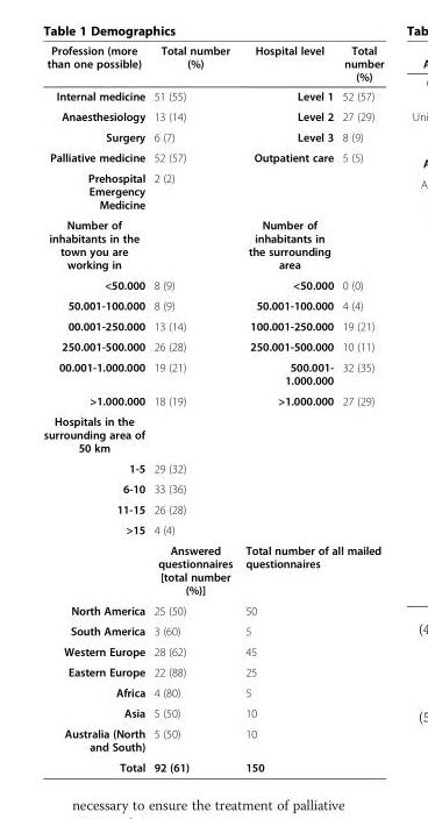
<table><thead><tr><td>Profession (more than one possible)</td><td>Total number (%)</td><td>Hospital level</td><td>Total number (%)</td></tr></thead><tbody><tr><td>Internal medicine</td><td>51 (55)</td><td>Level 1</td><td>52 (57)</td></tr><tr><td>Anaesthesiology</td><td>13 (14)</td><td>Level 2</td><td>27 (29)</td></tr><tr><td>Surgery</td><td>6 (7)</td><td>Level 3</td><td>8 (9)</td></tr><tr><td>Palliative medicine</td><td>52 (57)</td><td>Outpatient care</td><td>5 (5)</td></tr><tr><td>Prehospital Emergency Medicine</td><td>2 (2)</td><td></td><td></td></tr><tr><td>Number of inhabitants in the town you are working in</td><td></td><td>Number of inhabitants in the surrounding area</td><td></td></tr><tr><td>&lt;50.000</td><td>8 (9)</td><td>&lt;50.000</td><td>0 (0)</td></tr><tr><td>50.001-100.000</td><td>8 (9)</td><td>50.001-100.000</td><td>4 (4)</td></tr><tr><td>00.001-250.000</td><td>13 (14)</td><td>100.001-250.000</td><td>19 (21)</td></tr><tr><td>250.001-500.000</td><td>26 (28)</td><td>250.001-500.000</td><td>10 (11)</td></tr><tr><td>00.001-1.000.000</td><td>19 (21)</td><td>500.001- 1.000.000</td><td>32 (35)</td></tr><tr><td>&gt;1.000.000</td><td>18 (19)</td><td>&gt;1.000.000</td><td>27 (29)</td></tr><tr><td colspan="4">Hospitals in the surrounding area of 50 km</td></tr><tr><td>1-5</td><td>29 (32)</td><td rowspan="4" colspan="2"></td></tr><tr><td>6-10</td><td>33 (36)</td></tr><tr><td>11-15</td><td>26 (28)</td></tr><tr><td rowspan="2">&gt;15</td><td>4 (4)</td></tr><tr><td>Answered questionnaires [total number (%)]</td><td colspan="2">Total number of all mailed questionnaires</td></tr><tr><td>North America</td><td>25 (50)</td><td colspan="2">50</td></tr><tr><td>South America</td><td>3 (60)</td><td colspan="2">5</td></tr><tr><td>Western Europe</td><td>28 (62)</td><td colspan="2">45</td></tr><tr><td>Eastern Europe</td><td>22 (88)</td><td colspan="2">25</td></tr><tr><td>Africa</td><td>4 (80)</td><td colspan="2">5</td></tr><tr><td>Asia</td><td>5 (50)</td><td colspan="2">10</td></tr><tr><td>Australia (North and South)</td><td>5 (50)</td><td colspan="2">10</td></tr><tr><td>Total</td><td>92 (61)</td><td colspan="2">150</td></tr></tbody></table>